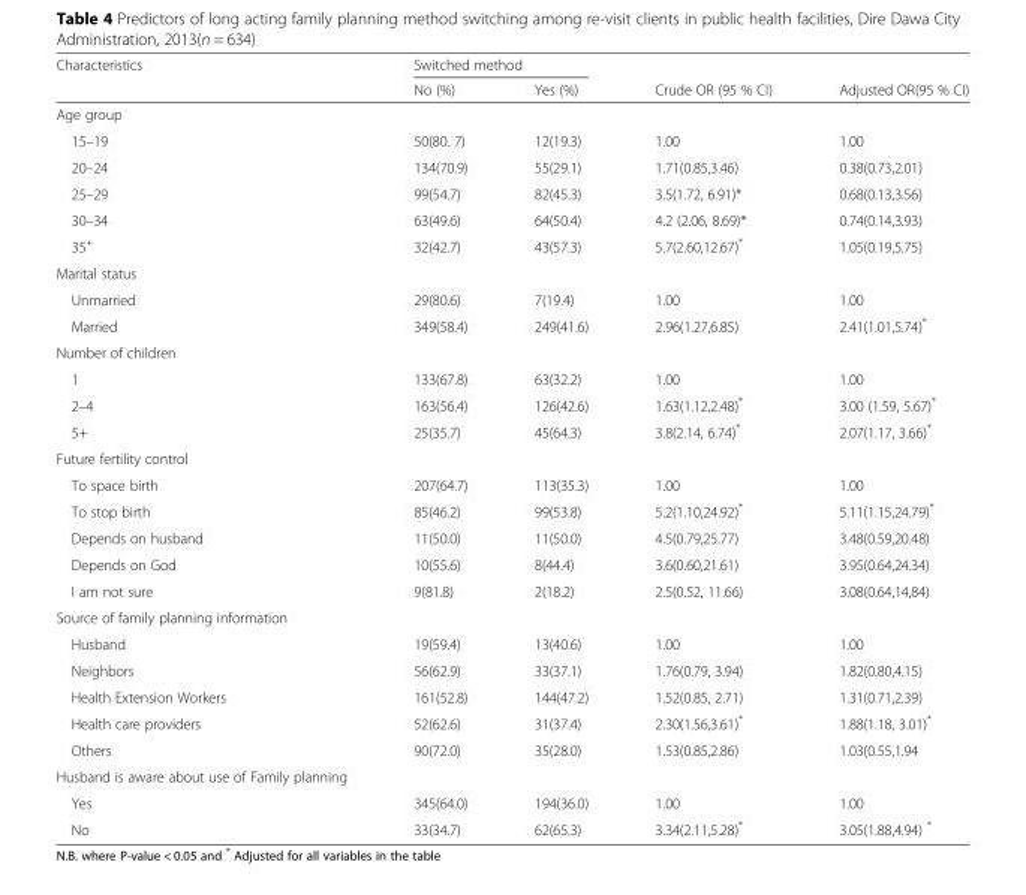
<table><thead><tr><td rowspan="2">Characteristics</td><td colspan="2">Switched method</td><td rowspan="2">Crude OR (95 % CI)</td><td rowspan="2">Adjusted OR(95 % CI)</td></tr><tr><td>No (%)</td><td>Yes (%)</td></tr></thead><tbody><tr><td colspan="5">Age group</td></tr><tr><td>15–19</td><td>50(80. 7)</td><td>12(19.3)</td><td>1.00</td><td>1.00</td></tr><tr><td>20–24</td><td>134(70.9)</td><td>55(29.1)</td><td>1.71(0.85,3.46)</td><td>0.38(0.73,2.01)</td></tr><tr><td>25–29</td><td>99(54.7)</td><td>82(45.3)</td><td>3.5(1.72, 6.91)*</td><td>0.68(0.13,3.56)</td></tr><tr><td>30–34</td><td>63(49.6)</td><td>64(50.4)</td><td>4.2 (2.06, 8.69)*</td><td>0.74(0.14,3.93)</td></tr><tr><td>35<sup>+</sup></td><td>32(42.7)</td><td>43(57.3)</td><td>5.7(2.60,12.67)*</td><td>1.05(0.19,5.75)</td></tr><tr><td colspan="5">Marital status</td></tr><tr><td>Unmarried</td><td>29(80.6)</td><td>7(19.4)</td><td>1.00</td><td>1.00</td></tr><tr><td>Married</td><td>349(58.4)</td><td>249(41.6)</td><td>2.96(1.27,6.85)</td><td>2.41(1.01,5.74)*</td></tr><tr><td colspan="5">Number of children</td></tr><tr><td>1</td><td>133(67.8)</td><td>63(32.2)</td><td>1.00</td><td>1.00</td></tr><tr><td>2–4</td><td>163(56.4)</td><td>126(42.6)</td><td>1.63(1.12,2.48)*</td><td>3.00 (1.59, 5.67)*</td></tr><tr><td>5+</td><td>25(35.7)</td><td>45(64.3)</td><td>3.8(2.14, 6.74)*</td><td>2.07(1.17, 3.66)*</td></tr><tr><td colspan="5">Future fertility control</td></tr><tr><td>To space birth</td><td>207(64.7)</td><td>113(35.3)</td><td>1.00</td><td>1.00</td></tr><tr><td>To stop birth</td><td>85(46.2)</td><td>99(53.8)</td><td>5.2(1.10,24.92)*</td><td>5.11(1.15,24.79)*</td></tr><tr><td>Depends on husband</td><td>11(50.0)</td><td>11(50.0)</td><td>4.5(0.79,25.77)</td><td>3.48(0.59,20.48)</td></tr><tr><td>Depends on God</td><td>10(55.6)</td><td>8(44.4)</td><td>3.6(0.60,21.61)</td><td>3.95(0.64,24.34)</td></tr><tr><td>I am not sure</td><td>9(81.8)</td><td>2(18.2)</td><td>2.5(0.52, 11.66)</td><td>3.08(0.64,14,84)</td></tr><tr><td colspan="5">Source of family planning information</td></tr><tr><td>Husband</td><td>19(59.4)</td><td>13(40.6)</td><td>1.00</td><td>1.00</td></tr><tr><td>Neighbors</td><td>56(62.9)</td><td>33(37.1)</td><td>1.76(0.79, 3.94)</td><td>1.82(0.80,4.15)</td></tr><tr><td>Health Extension Workers</td><td>161(52.8)</td><td>144(47.2)</td><td>1.52(0.85, 2.71)</td><td>1.31(0.71,2.39)</td></tr><tr><td>Health care providers</td><td>52(62.6)</td><td>31(37.4)</td><td>2.30(1.56,3.61)*</td><td>1.88(1.18, 3.01)*</td></tr><tr><td>Others</td><td>90(72.0)</td><td>35(28.0)</td><td>1.53(0.85,2.86)</td><td>1.03(0.55,1.94</td></tr><tr><td colspan="5">Husband is aware about use of Family planning</td></tr><tr><td>Yes</td><td>345(64.0)</td><td>194(36.0)</td><td>1.00</td><td>1.00</td></tr><tr><td>No</td><td>33(34.7)</td><td>62(65.3)</td><td>3.34(2.11,5.28)*</td><td>3.05(1.88,4.94) *</td></tr></tbody></table>